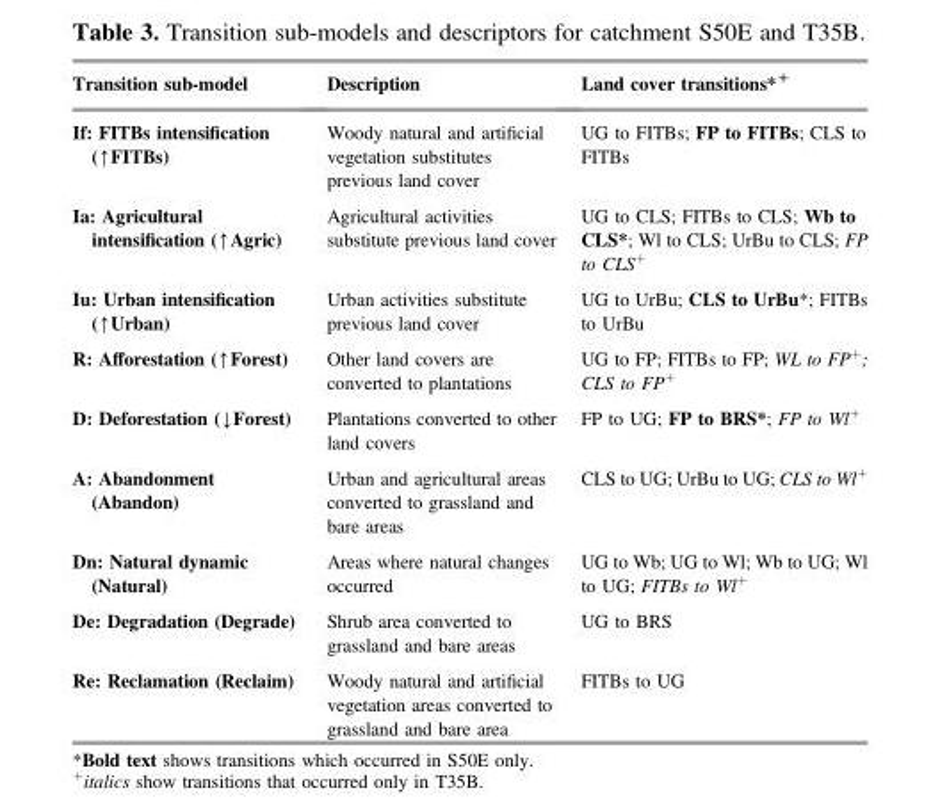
<table><thead><tr><td>Transition sub-model</td><td>Description</td><td>Land cover transitions*<sup>+</sup></td></tr></thead><tbody><tr><td>If: FITBs intensification (↑FITBs)</td><td>Woody natural and artificial vegetation substitutes previous land cover</td><td>UG to FITBs; FP to FITBs; CLS to FITBs</td></tr><tr><td>Ia: Agricultural intensification (↑Agric)</td><td>Agricultural activities substitute previous land cover</td><td>UG to CLS; FITBs to CLS; Wb to CLS*; Wl to CLS; UrBu to CLS; FP to CLS<sup>+</sup></td></tr><tr><td>Iu: Urban intensification (↑Urban)</td><td>Urban activities substitute previous land cover</td><td>UG to UrBu; CLS to UrBu*; FITBs to UrBu</td></tr><tr><td>R: Afforestation (↑Forest)</td><td>Other land covers are converted to plantations</td><td>UG to FP; FITBs to FP; WL to FP<sup>+</sup>; CLS to FP<sup>+</sup></td></tr><tr><td>D: Deforestation (↓Forest)</td><td>Plantations converted to other land covers</td><td>FP to UG; FP to BRS*; FP to Wl<sup>+</sup></td></tr><tr><td>A: Abandonment (Abandon)</td><td>Urban and agricultural areas converted to grassland and bare areas</td><td>CLS to UG; UrBu to UG; CLS to Wl<sup>+</sup></td></tr><tr><td>Dn: Natural dynamic (Natural)</td><td>Areas where natural changes occurred</td><td>UG to Wb; UG to Wl; Wb to UG; Wl to UG; FITBs to Wl<sup>+</sup></td></tr><tr><td>De: Degradation (Degrade)</td><td>Shrub area converted to grassland and bare areas</td><td>UG to BRS</td></tr><tr><td>Re: Reclamation (Reclaim)</td><td>Woody natural and artificial vegetation areas converted to grassland and bare area</td><td>FITBs to UG</td></tr></tbody></table>